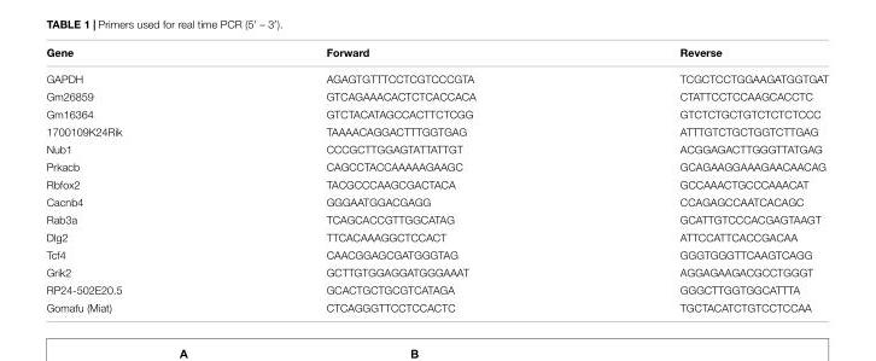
<table><thead><tr><td>Gene</td><td>Forward</td><td>Reverse</td></tr></thead><tbody><tr><td>GAPDH</td><td>AGAGTGTTTCCTCGTCCCGTA</td><td>TCGCTCCTGGAAGATGGTGAT</td></tr><tr><td>Gm26859</td><td>GTCAGAAACACTCTCACCACA</td><td>CTATTCCTCCAAGCACCTC</td></tr><tr><td>Gm16364</td><td>GTCTACATAGCCACTTCTCGG</td><td>GTCTCTGCTGTCTCTCTCCC</td></tr><tr><td>1700109K24Rik</td><td>TAAAACAGGACTTTGGTGAG</td><td>ATTTGTCTGCTGGTCTTGAG</td></tr><tr><td>Nub1</td><td>CCCGCTTGGAGTATTATTGT</td><td>ACGGAGACTTGGGTTATGAG</td></tr><tr><td>Prkacb</td><td>CAGCCTACCAAAAAGAAGC</td><td>GCAGAAGGAAAGAACAACAG</td></tr><tr><td>Rbfox2</td><td>TACGCCCAAGCGACTACA</td><td>GCCAAACTGCCCAAACAT</td></tr><tr><td>Cacnb4</td><td>GGGAATGGACGAGG</td><td>CCAGAGCCAATCACAGC</td></tr><tr><td>Rab3a</td><td>TCAGCACCGTTGGCATAG</td><td>GCATTGTCCCACGAGTAAGT</td></tr><tr><td>Dlg2</td><td>TTCACAAAGGCTCCACT</td><td>ATTCCATTCACCGACAA</td></tr><tr><td>Tcf4</td><td>CAACGGAGCGATGGGTAG</td><td>GGGTGGGTTCAAGTCAGG</td></tr><tr><td>Grik2</td><td>GCTTGTGGAGGATGGGAAAT</td><td>AGGAGAAGACGCCTGGGT</td></tr><tr><td>RP24-502E20.5</td><td>GCACTGCTGCGTCATAGA</td><td>GGGCTTGGTGGCATTTA</td></tr><tr><td>Gomafu (Miat)</td><td>CTCAGGGTTCCTCCACTC</td><td>TGCTACATCTGTCCTCCAA</td></tr></tbody></table>